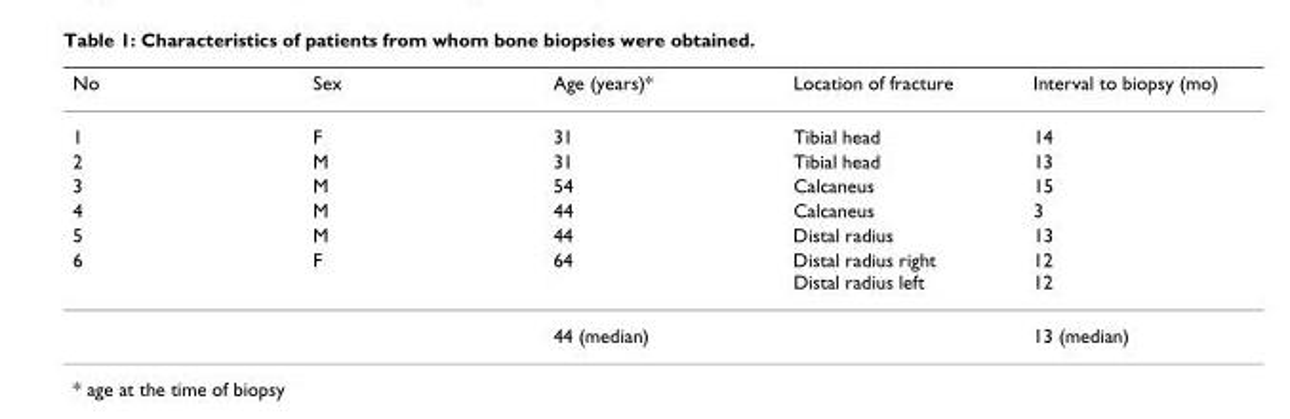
<table><thead><tr><td>No</td><td>Sex</td><td>Age (years)*</td><td>Location of fracture</td><td>Interval to biopsy (mo)</td></tr></thead><tbody><tr><td>1</td><td>F</td><td>31</td><td>Tibial head</td><td>14</td></tr><tr><td>2</td><td>M</td><td>31</td><td>Tibial head</td><td>13</td></tr><tr><td>3</td><td>M</td><td>54</td><td>Calcaneus</td><td>15</td></tr><tr><td>4</td><td>M</td><td>44</td><td>Calcaneus</td><td>3</td></tr><tr><td>5</td><td>M</td><td>44</td><td>Distal radius</td><td>13</td></tr><tr><td rowspan="2">6</td><td>F</td><td>64</td><td>Distal radius right Distal radius left</td><td>12 12</td></tr><tr><td></td><td>44 (median)</td><td></td><td>13 (median)</td></tr></tbody></table>